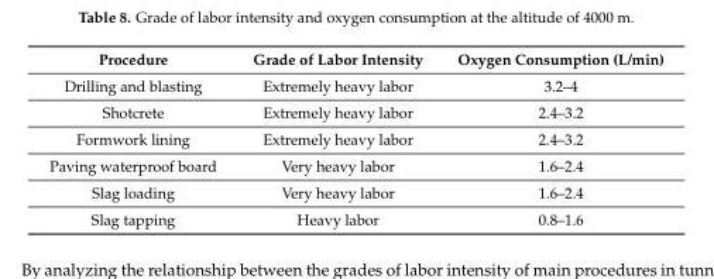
<table><thead><tr><td>Procedure</td><td>Grade of Labor Intensity</td><td>Oxygen Consumption (L/min)</td></tr></thead><tbody><tr><td>Drilling and blasting</td><td>Extremely heavy labor</td><td>3.2–4</td></tr><tr><td>Shotcrete</td><td>Extremely heavy labor</td><td>2.4–3.2</td></tr><tr><td>Formwork lining</td><td>Extremely heavy labor</td><td>2.4–3.2</td></tr><tr><td>Paving waterproof board</td><td>Very heavy labor</td><td>1.6–2.4</td></tr><tr><td>Slag loading</td><td>Very heavy labor</td><td>1.6–2.4</td></tr><tr><td>Slag tapping</td><td>Heavy labor</td><td>0.8–1.6</td></tr></tbody></table>